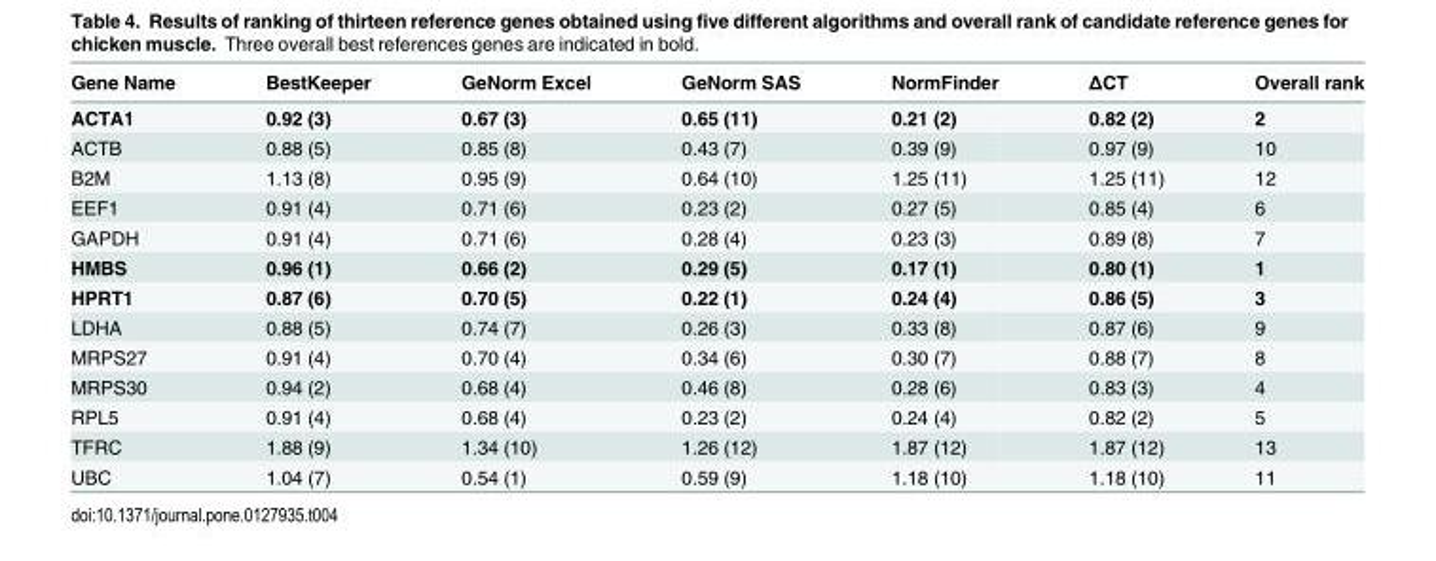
<table><thead><tr><td>Gene Name</td><td>BestKeeper</td><td>GeNorm Excel</td><td>GeNorm SAS</td><td>NormFinder</td><td>ΔCT</td><td>Overall rank</td></tr></thead><tbody><tr><td>ACTA1</td><td>0.92 (3)</td><td>0.67 (3)</td><td>0.65 (11)</td><td>0.21 (2)</td><td>0.82 (2)</td><td>2</td></tr><tr><td>ACTB</td><td>0.88 (5)</td><td>0.85 (8)</td><td>0.43 (7)</td><td>0.39 (9)</td><td>0.97 (9)</td><td>10</td></tr><tr><td>B2M</td><td>1.13 (8)</td><td>0.95 (9)</td><td>0.64 (10)</td><td>1.25 (11)</td><td>1.25 (11)</td><td>12</td></tr><tr><td>EEF1</td><td>0.91 (4)</td><td>0.71 (6)</td><td>0.23 (2)</td><td>0.27 (5)</td><td>0.85 (4)</td><td>6</td></tr><tr><td>GAPDH</td><td>0.91 (4)</td><td>0.71 (6)</td><td>0.28 (4)</td><td>0.23 (3)</td><td>0.89 (8)</td><td>7</td></tr><tr><td>HMBS</td><td>0.96 (1)</td><td>0.66 (2)</td><td>0.29 (5)</td><td>0.17 (1)</td><td>0.80 (1)</td><td>1</td></tr><tr><td>HPRT1</td><td>0.87 (6)</td><td>0.70 (5)</td><td>0.22 (1)</td><td>0.24 (4)</td><td>0.86 (5)</td><td>3</td></tr><tr><td>LDHA</td><td>0.88 (5)</td><td>0.74 (7)</td><td>0.26 (3)</td><td>0.33 (8)</td><td>0.87 (6)</td><td>9</td></tr><tr><td>MRPS27</td><td>0.91 (4)</td><td>0.70 (4)</td><td>0.34 (6)</td><td>0.30 (7)</td><td>0.88 (7)</td><td>8</td></tr><tr><td>MRPS30</td><td>0.94 (2)</td><td>0.68 (4)</td><td>0.46 (8)</td><td>0.28 (6)</td><td>0.83 (3)</td><td>4</td></tr><tr><td>RPL5</td><td>0.91 (4)</td><td>0.68 (4)</td><td>0.23 (2)</td><td>0.24 (4)</td><td>0.82 (2)</td><td>5</td></tr><tr><td>TFRC</td><td>1.88 (9)</td><td>1.34 (10)</td><td>1.26 (12)</td><td>1.87 (12)</td><td>1.87 (12)</td><td>13</td></tr><tr><td>UBC</td><td>1.04 (7)</td><td>0.54 (1)</td><td>0.59 (9)</td><td>1.18 (10)</td><td>1.18 (10)</td><td>11</td></tr></tbody></table>